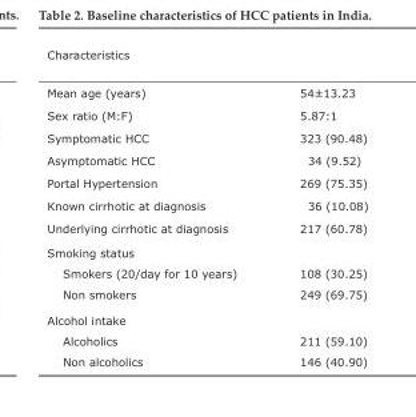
<table><thead><tr><td>Characteristics</td><td></td></tr></thead><tbody><tr><td>Mean age (years)</td><td>54±13.23</td></tr><tr><td>Sex ratio (M:F)</td><td>5.87:1</td></tr><tr><td>Symptomatic HCC</td><td>323 (90.48)</td></tr><tr><td>Asymptomatic HCC</td><td>34 (9.52)</td></tr><tr><td>Portal Hypertension</td><td>269 (75.35)</td></tr><tr><td>Known cirrhotic at diagnosis</td><td>36 (10.08)</td></tr><tr><td>Underlying cirrhotic at diagnosis</td><td>217 (60.78)</td></tr><tr><td colspan="2">Smoking status</td></tr><tr><td>Smokers (20/day for 10 years)</td><td>108 (30.25)</td></tr><tr><td>Non smokers</td><td>249 (69.75)</td></tr><tr><td colspan="2">Alcohol intake</td></tr><tr><td>Alcoholics</td><td>211 (59.10)</td></tr><tr><td>Non alcoholics</td><td>146 (40.90)</td></tr></tbody></table>